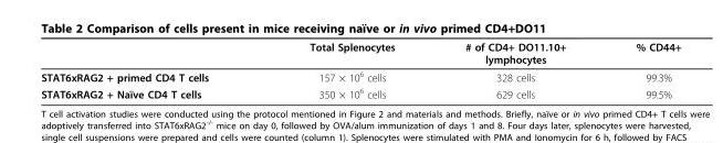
<table><thead><tr><td></td><td>Total Splenocytes</td><td># of CD4+ DO11.10+ lymphocytes</td><td>% CD44+</td></tr></thead><tbody><tr><td>STAT6xRAG2 + primed CD4 T cells</td><td>157 × 10<sup>6</sup> cells</td><td>328 cells</td><td>99.3%</td></tr><tr><td>STAT6xRAG2 + Naïve CD4 T cells</td><td>350 × 10<sup>6</sup> cells</td><td>629 cells</td><td>99.5%</td></tr></tbody></table>